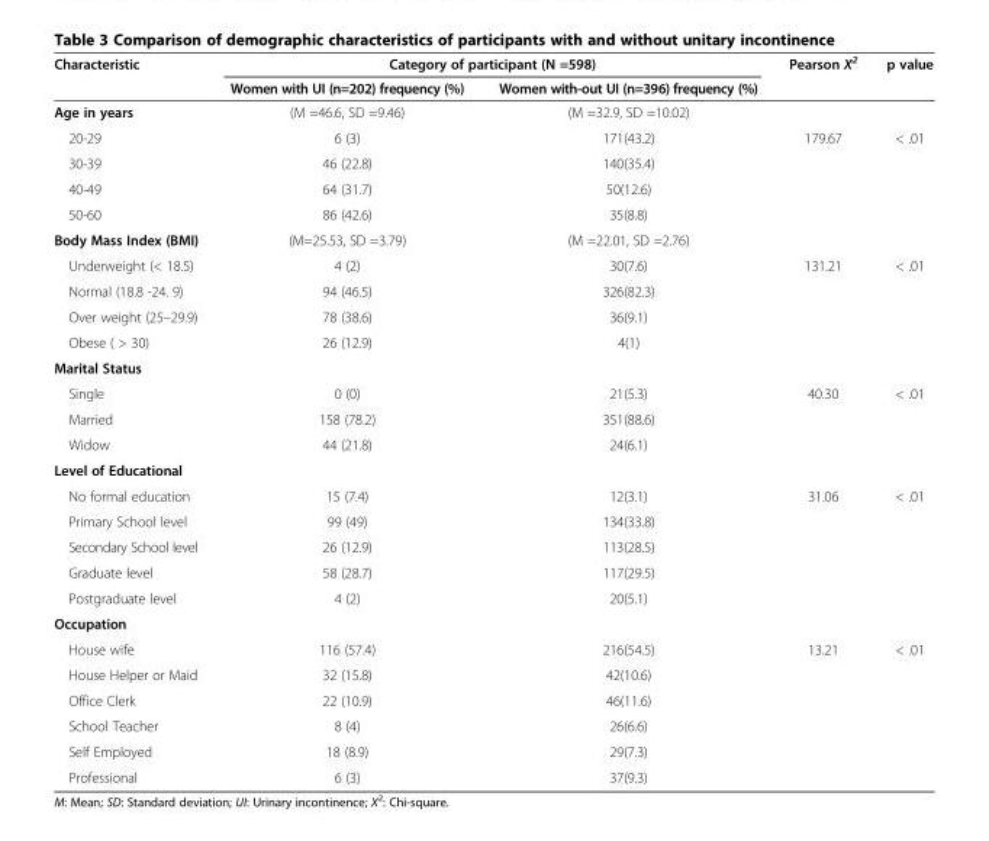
<table><thead><tr><td rowspan="2">Characteristic</td><td colspan="2">Category of participant (N =598)</td><td rowspan="2">Pearson X<sup>2</sup></td><td rowspan="2">p value</td></tr><tr><td>Women with UI (n=202) frequency (%)</td><td>Women with-out UI (n=396) frequency (%)</td></tr></thead><tbody><tr><td>Age in years</td><td>(M =46.6, SD =9.46)</td><td>(M =32.9, SD =10.02)</td><td></td><td></td></tr><tr><td>20-29</td><td>6 (3)</td><td>171(43.2)</td><td rowspan="4">179.67</td><td rowspan="4">&lt; .01</td></tr><tr><td>30-39</td><td>46 (22.8)</td><td>140(35.4)</td></tr><tr><td>40-49</td><td>64 (31.7)</td><td>50(12.6)</td></tr><tr><td>50-60</td><td>86 (42.6)</td><td>35(8.8)</td></tr><tr><td>Body Mass Index (BMI)</td><td>(M=25.53, SD =3.79)</td><td>(M =22.01, SD =2.76)</td><td></td><td></td></tr><tr><td>Underweight (&lt; 18.5)</td><td>4 (2)</td><td>30(7.6)</td><td rowspan="4">131.21</td><td rowspan="4">&lt; .01</td></tr><tr><td>Normal (18.8 -24. 9)</td><td>94 (46.5)</td><td>326(82.3)</td></tr><tr><td>Over weight (25–29.9)</td><td>78 (38.6)</td><td>36(9.1)</td></tr><tr><td>Obese ( &gt; 30)</td><td>26 (12.9)</td><td>4(1)</td></tr><tr><td colspan="5">Marital Status</td></tr><tr><td>Single</td><td>0 (0)</td><td>21(5.3)</td><td rowspan="3">40.30</td><td rowspan="3">&lt; .01</td></tr><tr><td>Married</td><td>158 (78.2)</td><td>351(88.6)</td></tr><tr><td>Widow</td><td>44 (21.8)</td><td>24(6.1)</td></tr><tr><td colspan="5">Level of Educational</td></tr><tr><td>No formal education</td><td>15 (7.4)</td><td>12(3.1)</td><td rowspan="5">31.06</td><td rowspan="5">&lt; .01</td></tr><tr><td>Primary School level</td><td>99 (49)</td><td>134(33.8)</td></tr><tr><td>Secondary School level</td><td>26 (12.9)</td><td>113(28.5)</td></tr><tr><td>Graduate level</td><td>58 (28.7)</td><td>117(29.5)</td></tr><tr><td>Postgraduate level</td><td>4 (2)</td><td>20(5.1)</td></tr><tr><td colspan="5">Occupation</td></tr><tr><td>House wife</td><td>116 (57.4)</td><td>216(54.5)</td><td rowspan="5">13.21</td><td rowspan="5">&lt; .01</td></tr><tr><td>House Helper or Maid</td><td>32 (15.8)</td><td>42(10.6)</td></tr><tr><td>Office Clerk</td><td>22 (10.9)</td><td>46(11.6)</td></tr><tr><td>School Teacher</td><td>8 (4)</td><td>26(6.6)</td></tr><tr><td>Self Employed</td><td>18 (8.9)</td><td>29(7.3)</td></tr><tr><td>Professional</td><td>6 (3)</td><td>37(9.3)</td><td></td><td></td></tr></tbody></table>